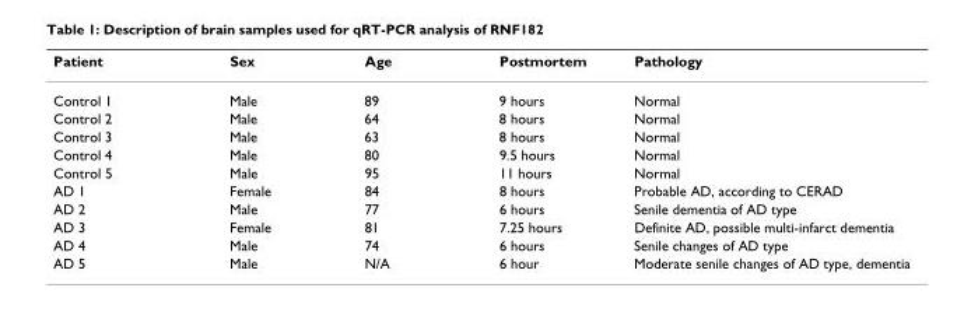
<table><thead><tr><td>Patient</td><td>Sex</td><td>Age</td><td>Postmortem</td><td>Pathology</td></tr></thead><tbody><tr><td>Control 1</td><td>Male</td><td>89</td><td>9 hours</td><td>Normal</td></tr><tr><td>Control 2</td><td>Male</td><td>64</td><td>8 hours</td><td>Normal</td></tr><tr><td>Control 3</td><td>Male</td><td>63</td><td>8 hours</td><td>Normal</td></tr><tr><td>Control 4</td><td>Male</td><td>80</td><td>9.5 hours</td><td>Normal</td></tr><tr><td>Control 5</td><td>Male</td><td>95</td><td>11 hours</td><td>Normal</td></tr><tr><td>AD 1</td><td>Female</td><td>84</td><td>8 hours</td><td>Probable AD, according to CERAD</td></tr><tr><td>AD 2</td><td>Male</td><td>77</td><td>6 hours</td><td>Senile dementia of AD type</td></tr><tr><td>AD 3</td><td>Female</td><td>81</td><td>7.25 hours</td><td>Definite AD, possible multi-infarct dementia</td></tr><tr><td>AD 4</td><td>Male</td><td>74</td><td>6 hours</td><td>Senile changes of AD type</td></tr><tr><td>AD 5</td><td>Male</td><td>N/A</td><td>6 hour</td><td>Moderate senile changes of AD type, dementia</td></tr></tbody></table>